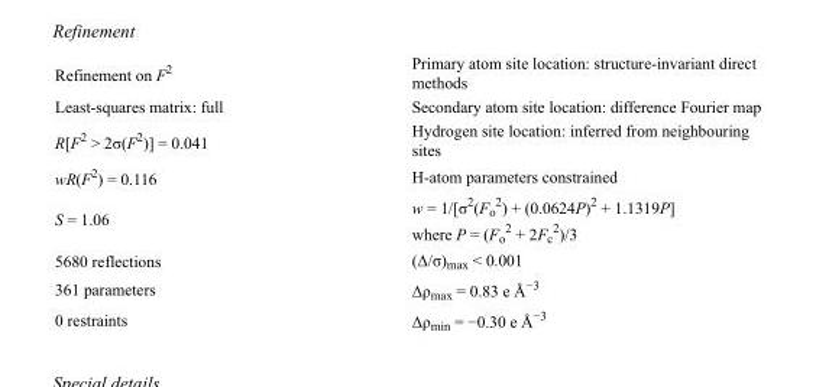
<table><tbody><tr><td>Refinement on F<sup>2</sup></td><td>Primary atom site location: structure-invariant direct methods</td></tr><tr><td>Least-squares matrix: full</td><td>Secondary atom site location: difference Fourier map</td></tr><tr><td>R[F<sup>2</sup> &gt; 2σ(F<sup>2</sup>)] = 0.041</td><td>Hydrogen site location: inferred from neighbouring sites</td></tr><tr><td>wR(F<sup>2</sup>) = 0.116</td><td>H-atom parameters constrained</td></tr><tr><td>S = 1.06</td><td>w = 1/[σ<sup>2</sup>(F<sub>o</sub> <sup>2</sup>) + (0.0624P)<sup>2</sup> + 1.1319P] where P = (F<sub>o</sub> <sup>2</sup> + 2F<sub>c</sub> <sup>2</sup>)/3</td></tr><tr><td>5680 reflections</td><td>(Δ/σ)<sub>max</sub> &lt; 0.001</td></tr><tr><td>361 parameters</td><td>Δρ<sub>max</sub> = 0.83 e Å<sup>−3</sup></td></tr><tr><td>0 restraints</td><td>Δρ<sub>min</sub> = −0.30 e Å<sup>−3</sup></td></tr></tbody></table>